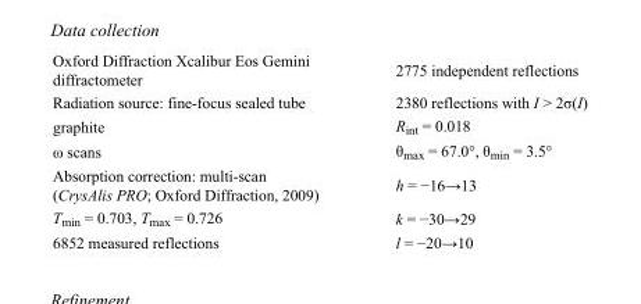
<table><tbody><tr><td>Oxford Diffraction Xcalibur Eos Gemini diffractometer</td><td>2775 independent reflections</td></tr><tr><td>Radiation source: fine-focus sealed tube</td><td>2380 reflections with I &gt; 2σ(I)</td></tr><tr><td>graphite</td><td>R<sub>int</sub> = 0.018</td></tr><tr><td>ω scans</td><td>θ<sub>max</sub> = 67.0°, θ<sub>min</sub> = 3.5°</td></tr><tr><td>Absorption correction: multi-scan (CrysAlis PRO; Oxford Diffraction, 2009)</td><td>h = −16→13</td></tr><tr><td>T<sub>min</sub> = 0.703, T<sub>max</sub> = 0.726</td><td>k = −30→29</td></tr><tr><td>6852 measured reflections</td><td>l = −20→10</td></tr></tbody></table>